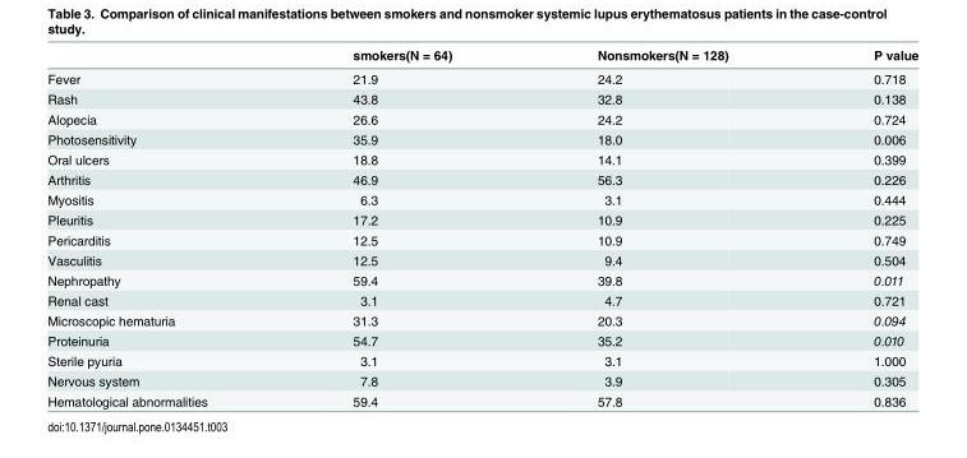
<table><thead><tr><td></td><td>smokers(N = 64)</td><td>Nonsmokers(N = 128)</td><td>P value</td></tr></thead><tbody><tr><td>Fever</td><td>21.9</td><td>24.2</td><td>0.718</td></tr><tr><td>Rash</td><td>43.8</td><td>32.8</td><td>0.138</td></tr><tr><td>Alopecia</td><td>26.6</td><td>24.2</td><td>0.724</td></tr><tr><td>Photosensitivity</td><td>35.9</td><td>18.0</td><td>0.006</td></tr><tr><td>Oral ulcers</td><td>18.8</td><td>14.1</td><td>0.399</td></tr><tr><td>Arthritis</td><td>46.9</td><td>56.3</td><td>0.226</td></tr><tr><td>Myositis</td><td>6.3</td><td>3.1</td><td>0.444</td></tr><tr><td>Pleuritis</td><td>17.2</td><td>10.9</td><td>0.225</td></tr><tr><td>Pericarditis</td><td>12.5</td><td>10.9</td><td>0.749</td></tr><tr><td>Vasculitis</td><td>12.5</td><td>9.4</td><td>0.504</td></tr><tr><td>Nephropathy</td><td>59.4</td><td>39.8</td><td>0.011</td></tr><tr><td>Renal cast</td><td>3.1</td><td>4.7</td><td>0.721</td></tr><tr><td>Microscopic hematuria</td><td>31.3</td><td>20.3</td><td>0.094</td></tr><tr><td>Proteinuria</td><td>54.7</td><td>35.2</td><td>0.010</td></tr><tr><td>Sterile pyuria</td><td>3.1</td><td>3.1</td><td>1.000</td></tr><tr><td>Nervous system</td><td>7.8</td><td>3.9</td><td>0.305</td></tr><tr><td>Hematological abnormalities</td><td>59.4</td><td>57.8</td><td>0.836</td></tr></tbody></table>